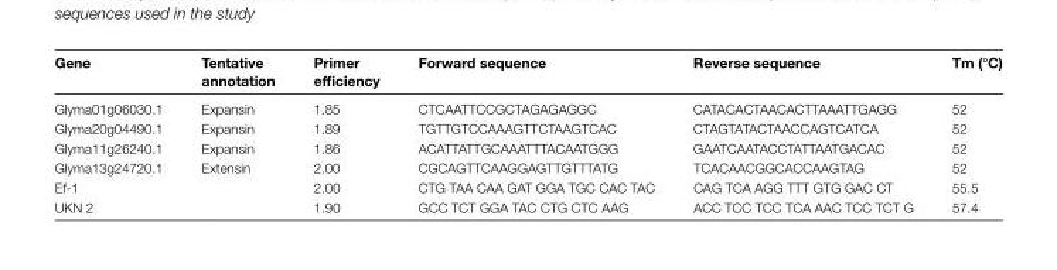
<table><thead><tr><td>Gene</td><td>Tentative annotation</td><td>Primer efficiency</td><td>Forward sequence</td><td>Reverse sequence</td><td>Tm (°C)</td></tr></thead><tbody><tr><td>Glyma01g06030.1</td><td>Expansin</td><td>1.85</td><td>CTCAATTCCGCTAGAGAGGC</td><td>CATACACTAACACTTAAATTGAGG</td><td>52</td></tr><tr><td>Glyma20g04490.1</td><td>Expansin</td><td>1.89</td><td>TGTTGTCCAAAGTTCTAAGTCAC</td><td>CTAGTATACTAACCAGTCATCA</td><td>52</td></tr><tr><td>Glyma11g26240.1</td><td>Expansin</td><td>1.86</td><td>ACATTATTGCAAATTTACAATGGG</td><td>GAATCAATACCTATTAATGACAC</td><td>52</td></tr><tr><td>Glyma13g24720.1</td><td>Extensin</td><td>2.00</td><td>CGCAGTTCAAGGAGTTGTTTATG</td><td>TCACAACGGCACCAAGTAG</td><td>52</td></tr><tr><td>Ef-1</td><td></td><td>2.00</td><td>CTG TAA CAA GAT GGA TGC CAC TAC</td><td>CAG TCA AGG TTT GTG GAC CT</td><td>55.5</td></tr><tr><td>UKN 2</td><td></td><td>1.90</td><td>GCC TCT GGA TAC CTG CTC AAG</td><td>ACC TCC TCC TCA AAC TCC TCT G</td><td>57.4</td></tr></tbody></table>